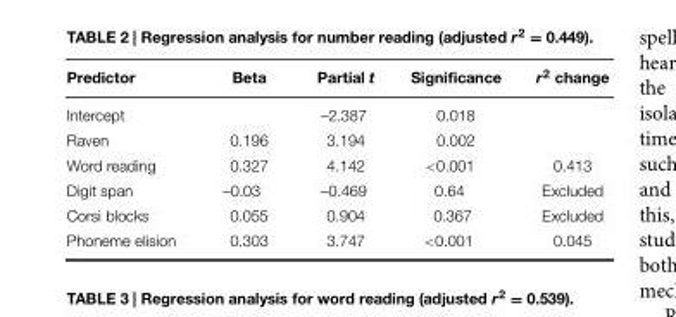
<table><thead><tr><td>Predictor</td><td>Beta</td><td>Partial t</td><td>Significance</td><td>r<sup>2</sup> change</td></tr></thead><tbody><tr><td>Intercept</td><td></td><td>–2.387</td><td>0.018</td><td></td></tr><tr><td>Raven</td><td>0.196</td><td>3.194</td><td>0.002</td><td></td></tr><tr><td>Word reading</td><td>0.327</td><td>4.142</td><td>&lt;0.001</td><td>0.413</td></tr><tr><td>Digit span</td><td>–0.03</td><td>–0.469</td><td>0.64</td><td>Excluded</td></tr><tr><td>Corsi blocks</td><td>0.055</td><td>0.904</td><td>0.367</td><td>Excluded</td></tr><tr><td>Phoneme elision</td><td>0.303</td><td>3.747</td><td>&lt;0.001</td><td>0.045</td></tr></tbody></table>